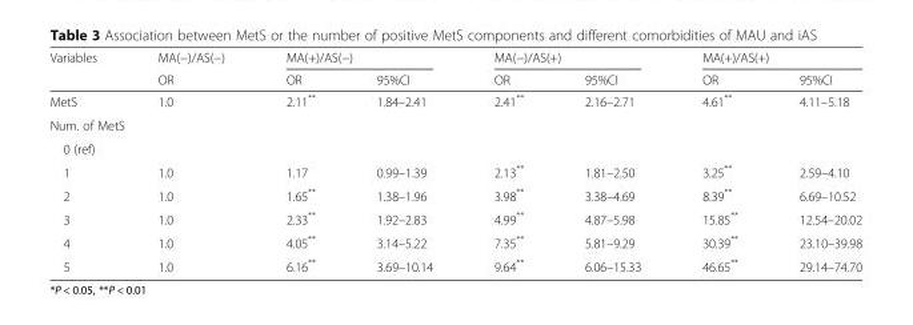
<table><thead><tr><td rowspan="2">Variables</td><td rowspan="2">MA(−)/AS(−) OR</td><td colspan="2">MA(+)/AS(−)</td><td colspan="2">MA(−)/AS(+)</td><td colspan="2">MA(+)/AS(+)</td></tr><tr><td>OR</td><td>95%CI</td><td>OR</td><td>95%CI</td><td>OR</td><td>95%CI</td></tr></thead><tbody><tr><td>MetS</td><td>1.0</td><td>2.11**</td><td>1.84–2.41</td><td>2.41**</td><td>2.16–2.71</td><td>4.61**</td><td>4.11–5.18</td></tr><tr><td colspan="8">Num. of MetS</td></tr><tr><td colspan="8">0 (ref)</td></tr><tr><td>1</td><td>1.0</td><td>1.17</td><td>0.99–1.39</td><td>2.13**</td><td>1.81–2.50</td><td>3.25**</td><td>2.59–4.10</td></tr><tr><td>2</td><td>1.0</td><td>1.65**</td><td>1.38–1.96</td><td>3.98**</td><td>3.38–4.69</td><td>8.39**</td><td>6.69–10.52</td></tr><tr><td>3</td><td>1.0</td><td>2.33**</td><td>1.92–2.83</td><td>4.99**</td><td>4.87–5.98</td><td>15.85**</td><td>12.54–20.02</td></tr><tr><td>4</td><td>1.0</td><td>4.05**</td><td>3.14–5.22</td><td>7.35**</td><td>5.81–9.29</td><td>30.39**</td><td>23.10–39.98</td></tr><tr><td>5</td><td>1.0</td><td>6.16**</td><td>3.69–10.14</td><td>9.64**</td><td>6.06–15.33</td><td>46.65**</td><td>29.14–74.70</td></tr></tbody></table>